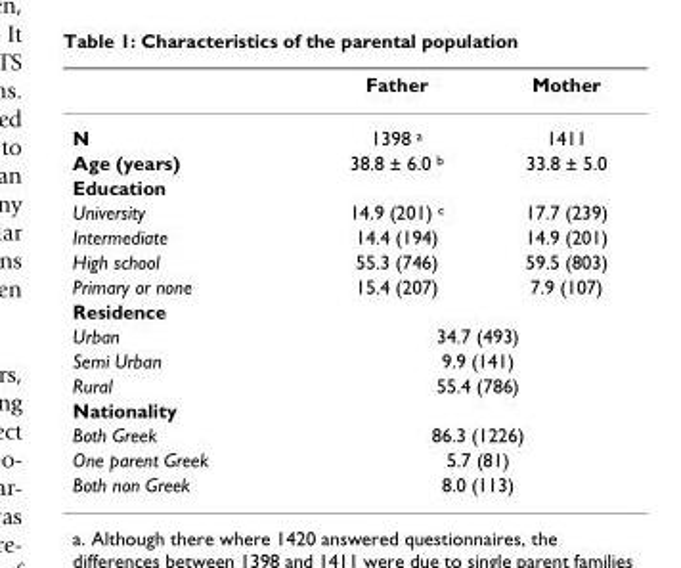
<table><thead><tr><td></td><td>Father</td><td>Mother</td></tr></thead><tbody><tr><td>N</td><td>1398 <sup>a</sup></td><td>1411</td></tr><tr><td>Age (years)</td><td>38.8 ± 6.0 <sup>b</sup></td><td>33.8 ± 5.0</td></tr><tr><td colspan="3">Education</td></tr><tr><td>University</td><td>14.9 (201) <sup>c</sup></td><td>17.7 (239)</td></tr><tr><td>Intermediate</td><td>14.4 (194)</td><td>14.9 (201)</td></tr><tr><td>High school</td><td>55.3 (746)</td><td>59.5 (803)</td></tr><tr><td>Primary or none</td><td>15.4 (207)</td><td>7.9 (107)</td></tr><tr><td colspan="3">Residence</td></tr><tr><td>Urban</td><td colspan="2">34.7 (493)</td></tr><tr><td>Semi Urban</td><td colspan="2">9.9 (141)</td></tr><tr><td>Rural</td><td colspan="2">55.4 (786)</td></tr><tr><td colspan="3">Nationality</td></tr><tr><td>Both Greek</td><td colspan="2">86.3 (1226)</td></tr><tr><td>One parent Greek</td><td colspan="2">5.7 (81)</td></tr><tr><td>Both non Greek</td><td colspan="2">8.0 (113)</td></tr></tbody></table>